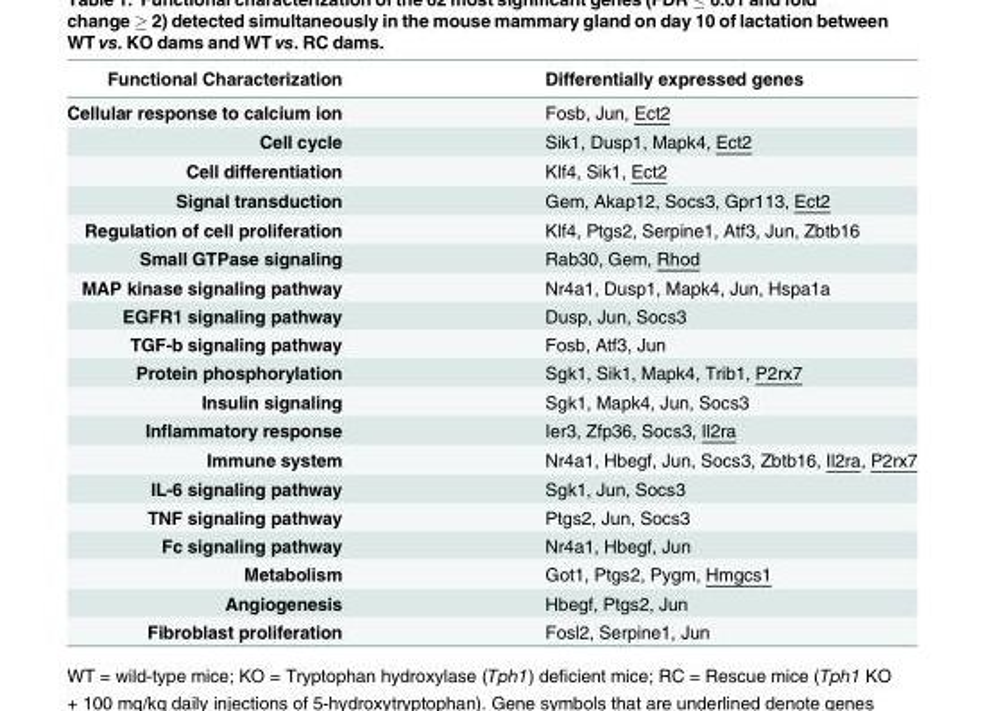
<table><thead><tr><td>Functional Characterization</td><td>Differentially expressed genes</td></tr></thead><tbody><tr><td>Cellular response to calcium ion</td><td>Fosb, Jun, Ect2</td></tr><tr><td>Cell cycle</td><td>Sik1, Dusp1, Mapk4, Ect2</td></tr><tr><td>Cell differentiation</td><td>Klf4, Sik1, Ect2</td></tr><tr><td>Signal transduction</td><td>Gem, Akap12, Socs3, Gpr113, Ect2</td></tr><tr><td>Regulation of cell proliferation</td><td>Klf4, Ptgs2, Serpine1, Atf3, Jun, Zbtb16</td></tr><tr><td>Small GTPase signaling</td><td>Rab30, Gem, Rhod</td></tr><tr><td>MAP kinase signaling pathway</td><td>Nr4a1, Dusp1, Mapk4, Jun, Hspa1a</td></tr><tr><td>EGFR1 signaling pathway</td><td>Dusp, Jun, Socs3</td></tr><tr><td>TGF-b signaling pathway</td><td>Fosb, Atf3, Jun</td></tr><tr><td>Protein phosphorylation</td><td>Sgk1, Sik1, Mapk4, Trib1, P2rx7</td></tr><tr><td>Insulin signaling</td><td>Sgk1, Mapk4, Jun, Socs3</td></tr><tr><td>Inflammatory response</td><td>Ier3, Zfp36, Socs3, Il2ra</td></tr><tr><td>Immune system</td><td>Nr4a1, Hbegf, Jun, Socs3, Zbtb16, Il2ra, P2rx7</td></tr><tr><td>IL-6 signaling pathway</td><td>Sgk1, Jun, Socs3</td></tr><tr><td>TNF signaling pathway</td><td>Ptgs2, Jun, Socs3</td></tr><tr><td>Fc signaling pathway</td><td>Nr4a1, Hbegf, Jun</td></tr><tr><td>Metabolism</td><td>Got1, Ptgs2, Pygm, Hmgcs1</td></tr><tr><td>Angiogenesis</td><td>Hbegf, Ptgs2, Jun</td></tr><tr><td>Fibroblast proliferation</td><td>Fosl2, Serpine1, Jun</td></tr></tbody></table>